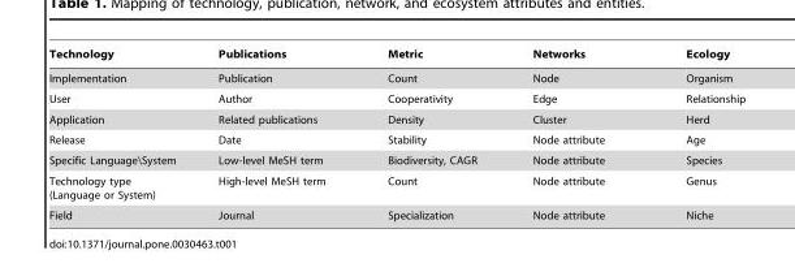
<table><thead><tr><td>Technology</td><td>Publications</td><td>Metric</td><td>Networks</td><td>Ecology</td></tr></thead><tbody><tr><td>Implementation</td><td>Publication</td><td>Count</td><td>Node</td><td>Organism</td></tr><tr><td>User</td><td>Author</td><td>Cooperativity</td><td>Edge</td><td>Relationship</td></tr><tr><td>Application</td><td>Related publications</td><td>Density</td><td>Cluster</td><td>Herd</td></tr><tr><td>Release</td><td>Date</td><td>Stability</td><td>Node attribute</td><td>Age</td></tr><tr><td>Specific Language\System</td><td>Low-level MeSH term</td><td>Biodiversity, CAGR</td><td>Node attribute</td><td>Species</td></tr><tr><td>Technology type (Language or System)</td><td>High-level MeSH term</td><td>Count</td><td>Node attribute</td><td>Genus</td></tr><tr><td>Field</td><td>Journal</td><td>Specialization</td><td>Node attribute</td><td>Niche</td></tr></tbody></table>